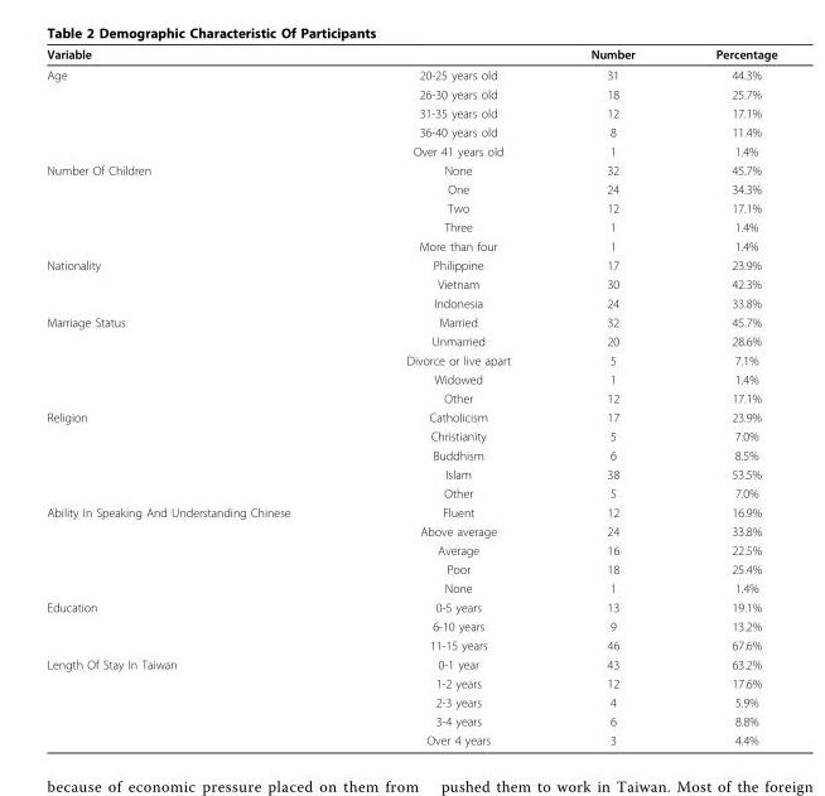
<table><thead><tr><td>Variable</td><td></td><td>Number</td><td>Percentage</td></tr></thead><tbody><tr><td rowspan="5">Age</td><td>20-25 years old</td><td>31</td><td>44.3%</td></tr><tr><td>26-30 years old</td><td>18</td><td>25.7%</td></tr><tr><td>31-35 years old</td><td>12</td><td>17.1%</td></tr><tr><td>36-40 years old</td><td>8</td><td>11.4%</td></tr><tr><td>Over 41 years old</td><td>1</td><td>1.4%</td></tr><tr><td rowspan="5">Number Of Children</td><td>None</td><td>32</td><td>45.7%</td></tr><tr><td>One</td><td>24</td><td>34.3%</td></tr><tr><td>Two</td><td>12</td><td>17.1%</td></tr><tr><td>Three</td><td>1</td><td>1.4%</td></tr><tr><td>More than four</td><td>1</td><td>1.4%</td></tr><tr><td rowspan="3">Nationality</td><td>Philippine</td><td>17</td><td>23.9%</td></tr><tr><td>Vietnam</td><td>30</td><td>42.3%</td></tr><tr><td>Indonesia</td><td>24</td><td>33.8%</td></tr><tr><td rowspan="5">Marriage Status</td><td>Married</td><td>32</td><td>45.7%</td></tr><tr><td>Unmarried</td><td>20</td><td>28.6%</td></tr><tr><td>Divorce or live apart</td><td>5</td><td>7.1%</td></tr><tr><td>Widowed</td><td>1</td><td>1.4%</td></tr><tr><td>Other</td><td>12</td><td>17.1%</td></tr><tr><td rowspan="5">Religion</td><td>Catholicism</td><td>17</td><td>23.9%</td></tr><tr><td>Christianity</td><td>5</td><td>7.0%</td></tr><tr><td>Buddhism</td><td>6</td><td>8.5%</td></tr><tr><td>Islam</td><td>38</td><td>53.5%</td></tr><tr><td>Other</td><td>5</td><td>7.0%</td></tr><tr><td rowspan="5">Ability In Speaking And Understanding Chinese</td><td>Fluent</td><td>12</td><td>16.9%</td></tr><tr><td>Above average</td><td>24</td><td>33.8%</td></tr><tr><td>Average</td><td>16</td><td>22.5%</td></tr><tr><td>Poor</td><td>18</td><td>25.4%</td></tr><tr><td>None</td><td>1</td><td>1.4%</td></tr><tr><td rowspan="3">Education</td><td>0-5 years</td><td>13</td><td>19.1%</td></tr><tr><td>6-10 years</td><td>9</td><td>13.2%</td></tr><tr><td>11-15 years</td><td>46</td><td>67.6%</td></tr><tr><td rowspan="5">Length Of Stay In Taiwan</td><td>0-1 year</td><td>43</td><td>63.2%</td></tr><tr><td>1-2 years</td><td>12</td><td>17.6%</td></tr><tr><td>2-3 years</td><td>4</td><td>5.9%</td></tr><tr><td>3-4 years</td><td>6</td><td>8.8%</td></tr><tr><td>Over 4 years</td><td>3</td><td>4.4%</td></tr></tbody></table>